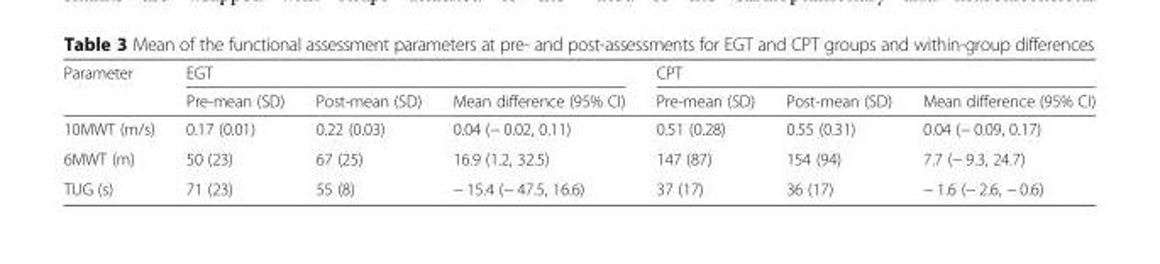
<table><thead><tr><td rowspan="2">Parameter</td><td colspan="3">EGT</td><td colspan="3">CPT</td></tr><tr><td>Pre-mean (SD)</td><td>Post-mean (SD)</td><td>Mean difference (95% CI)</td><td>Pre-mean (SD)</td><td>Post-mean (SD)</td><td>Mean difference (95% CI)</td></tr></thead><tbody><tr><td>10MWT (m/s)</td><td>0.17 (0.01)</td><td>0.22 (0.03)</td><td>0.04 (− 0.02, 0.11)</td><td>0.51 (0.28)</td><td>0.55 (0.31)</td><td>0.04 (− 0.09, 0.17)</td></tr><tr><td>6MWT (m)</td><td>50 (23)</td><td>67 (25)</td><td>16.9 (1.2, 32.5)</td><td>147 (87)</td><td>154 (94)</td><td>7.7 (− 9.3, 24.7)</td></tr><tr><td>TUG (s)</td><td>71 (23)</td><td>55 (8)</td><td>− 15.4 (− 47.5, 16.6)</td><td>37 (17)</td><td>36 (17)</td><td>− 1.6 (− 2.6, − 0.6)</td></tr></tbody></table>